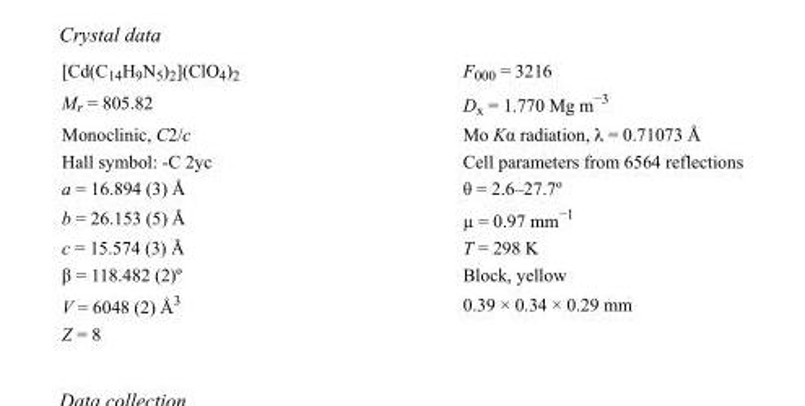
<table><tbody><tr><td>[Cd(C<sub>14</sub>H<sub>9</sub>N<sub>5</sub>)<sub>2</sub>](ClO<sub>4</sub>)<sub>2</sub></td><td>F000 = 3216</td></tr><tr><td>M<sub>r</sub> = 805.82</td><td>D<sub>x</sub> = 1.770 Mg m<sup>−3</sup></td></tr><tr><td>Monoclinic, C2/c</td><td>Mo Kα radiation, λ = 0.71073 Å</td></tr><tr><td>Hall symbol: -C 2yc</td><td>Cell parameters from 6564 reflections</td></tr><tr><td>a = 16.894 (3) Å</td><td>θ = 2.6–27.7º</td></tr><tr><td>b = 26.153 (5) Å</td><td>µ = 0.97 mm<sup>−1</sup></td></tr><tr><td>c = 15.574 (3) Å</td><td>T = 298 K</td></tr><tr><td>β = 118.482 (2)º</td><td>Block, yellow</td></tr><tr><td>V = 6048 (2) Å<sup>3</sup></td><td>0.39 × 0.34 × 0.29 mm</td></tr><tr><td>Z = 8</td><td></td></tr></tbody></table>